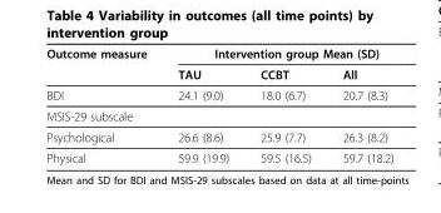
<table><thead><tr><td rowspan="2">Outcome measure</td><td colspan="3">Intervention group Mean (SD)</td></tr><tr><td>TAU</td><td>CCBT</td><td>All</td></tr></thead><tbody><tr><td>BDI</td><td>24.1 (9.0)</td><td>18.0 (6.7)</td><td>20.7 (8.3)</td></tr><tr><td colspan="4">MSIS-29 subscale</td></tr><tr><td>Psychological</td><td>26.6 (8.6)</td><td>25.9 (7.7)</td><td>26.3 (8.2)</td></tr><tr><td>Physical</td><td>59.9 (19.9)</td><td>59.5 (16.5)</td><td>59.7 (18.2)</td></tr></tbody></table>